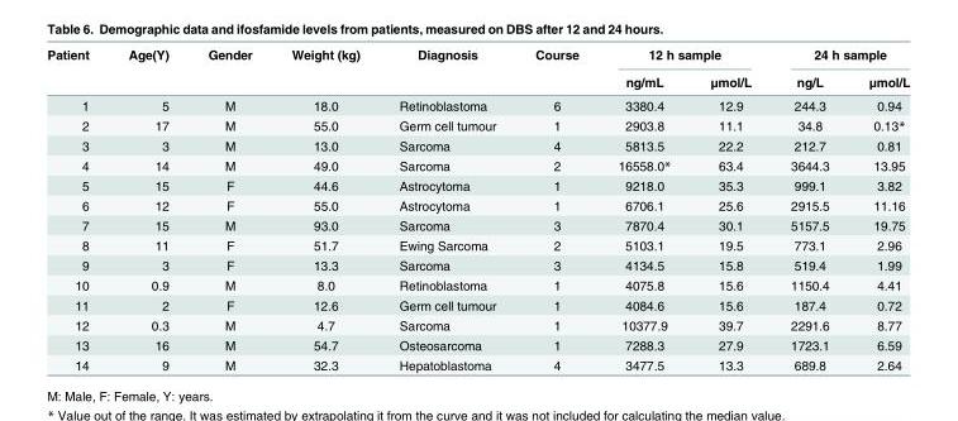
<table><thead><tr><td rowspan="2">Patient</td><td rowspan="2">Age(Y)</td><td rowspan="2">Gender</td><td rowspan="2">Weight (kg)</td><td rowspan="2">Diagnosis</td><td rowspan="2">Course</td><td colspan="2">12 h sample</td><td colspan="2">24 h sample</td></tr><tr><td>ng/mL</td><td>μmol/L</td><td>ng/L</td><td>μmol/L</td></tr></thead><tbody><tr><td>1</td><td>5</td><td>M</td><td>18.0</td><td>Retinoblastoma</td><td>6</td><td>3380.4</td><td>12.9</td><td>244.3</td><td>0.94</td></tr><tr><td>2</td><td>17</td><td>M</td><td>55.0</td><td>Germ cell tumour</td><td>1</td><td>2903.8</td><td>11.1</td><td>34.8</td><td>0.13*</td></tr><tr><td>3</td><td>3</td><td>M</td><td>13.0</td><td>Sarcoma</td><td>4</td><td>5813.5</td><td>22.2</td><td>212.7</td><td>0.81</td></tr><tr><td>4</td><td>14</td><td>M</td><td>49.0</td><td>Sarcoma</td><td>2</td><td>16558.0*</td><td>63.4</td><td>3644.3</td><td>13.95</td></tr><tr><td>5</td><td>15</td><td>F</td><td>44.6</td><td>Astrocytoma</td><td>1</td><td>9218.0</td><td>35.3</td><td>999.1</td><td>3.82</td></tr><tr><td>6</td><td>12</td><td>F</td><td>55.0</td><td>Astrocytoma</td><td>1</td><td>6706.1</td><td>25.6</td><td>2915.5</td><td>11.16</td></tr><tr><td>7</td><td>15</td><td>M</td><td>93.0</td><td>Sarcoma</td><td>3</td><td>7870.4</td><td>30.1</td><td>5157.5</td><td>19.75</td></tr><tr><td>8</td><td>11</td><td>F</td><td>51.7</td><td>Ewing Sarcoma</td><td>2</td><td>5103.1</td><td>19.5</td><td>773.1</td><td>2.96</td></tr><tr><td>9</td><td>3</td><td>F</td><td>13.3</td><td>Sarcoma</td><td>3</td><td>4134.5</td><td>15.8</td><td>519.4</td><td>1.99</td></tr><tr><td>10</td><td>0.9</td><td>M</td><td>8.0</td><td>Retinoblastoma</td><td>1</td><td>4075.8</td><td>15.6</td><td>1150.4</td><td>4.41</td></tr><tr><td>11</td><td>2</td><td>F</td><td>12.6</td><td>Germ cell tumour</td><td>1</td><td>4084.6</td><td>15.6</td><td>187.4</td><td>0.72</td></tr><tr><td>12</td><td>0.3</td><td>M</td><td>4.7</td><td>Sarcoma</td><td>1</td><td>10377.9</td><td>39.7</td><td>2291.6</td><td>8.77</td></tr><tr><td>13</td><td>16</td><td>M</td><td>54.7</td><td>Osteosarcoma</td><td>1</td><td>7288.3</td><td>27.9</td><td>1723.1</td><td>6.59</td></tr><tr><td>14</td><td>9</td><td>M</td><td>32.3</td><td>Hepatoblastoma</td><td>4</td><td>3477.5</td><td>13.3</td><td>689.8</td><td>2.64</td></tr></tbody></table>